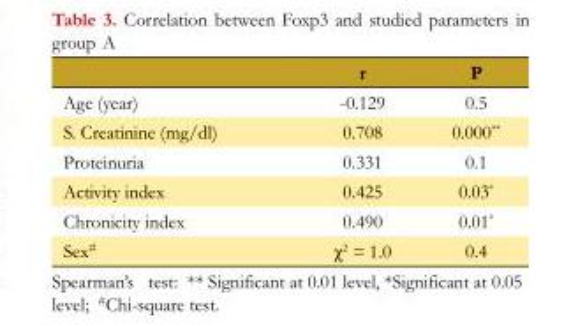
<table><thead><tr><td></td><td>r</td><td>P</td></tr></thead><tbody><tr><td>Age (year)</td><td>-0.129</td><td>0.5</td></tr><tr><td>S. Creatinine (mg/dl)</td><td>0.708</td><td>0.000**</td></tr><tr><td>Proteinuria</td><td>0.331</td><td>0.1</td></tr><tr><td>Activity index</td><td>0.425</td><td>0.03*</td></tr><tr><td>Chronicity index</td><td>0.490</td><td>0.01*</td></tr><tr><td>Sex<sup>#</sup></td><td>χ<sup>2</sup> = 1.0</td><td>0.4</td></tr></tbody></table>